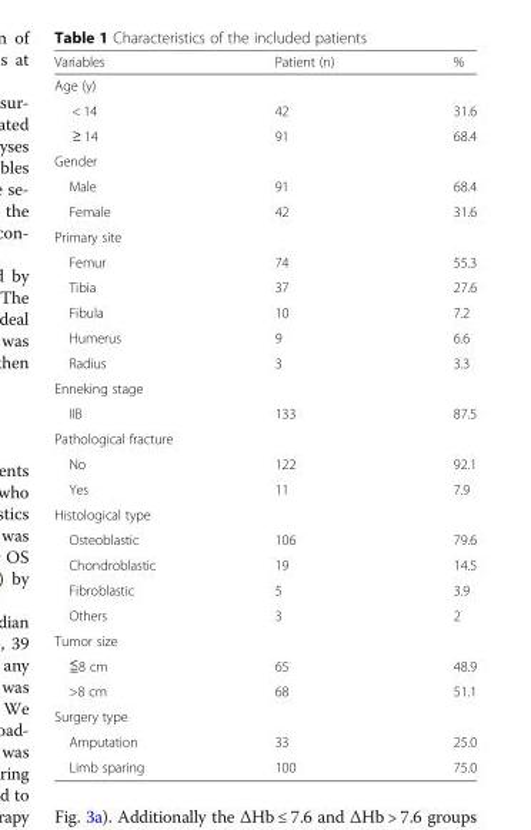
<table><thead><tr><td>Variables</td><td>Patient (n)</td><td>%</td></tr></thead><tbody><tr><td colspan="3">Age (y)</td></tr><tr><td>&lt; 14</td><td>42</td><td>31.6</td></tr><tr><td>≥ 14</td><td>91</td><td>68.4</td></tr><tr><td colspan="3">Gender</td></tr><tr><td>Male</td><td>91</td><td>68.4</td></tr><tr><td>Female</td><td>42</td><td>31.6</td></tr><tr><td colspan="3">Primary site</td></tr><tr><td>Femur</td><td>74</td><td>55.3</td></tr><tr><td>Tibia</td><td>37</td><td>27.6</td></tr><tr><td>Fibula</td><td>10</td><td>7.2</td></tr><tr><td>Humerus</td><td>9</td><td>6.6</td></tr><tr><td>Radius</td><td>3</td><td>3.3</td></tr><tr><td colspan="3">Enneking stage</td></tr><tr><td>IIB</td><td>133</td><td>87.5</td></tr><tr><td colspan="3">Pathological fracture</td></tr><tr><td>No</td><td>122</td><td>92.1</td></tr><tr><td>Yes</td><td>11</td><td>7.9</td></tr><tr><td colspan="3">Histological type</td></tr><tr><td>Osteoblastic</td><td>106</td><td>79.6</td></tr><tr><td>Chondroblastic</td><td>19</td><td>14.5</td></tr><tr><td>Fibroblastic</td><td>5</td><td>3.9</td></tr><tr><td>Others</td><td>3</td><td>2</td></tr><tr><td colspan="3">Tumor size</td></tr><tr><td>≦8 cm</td><td>65</td><td>48.9</td></tr><tr><td>&gt;8 cm</td><td>68</td><td>51.1</td></tr><tr><td colspan="3">Surgery type</td></tr><tr><td>Amputation</td><td>33</td><td>25.0</td></tr><tr><td>Limb sparing</td><td>100</td><td>75.0</td></tr></tbody></table>